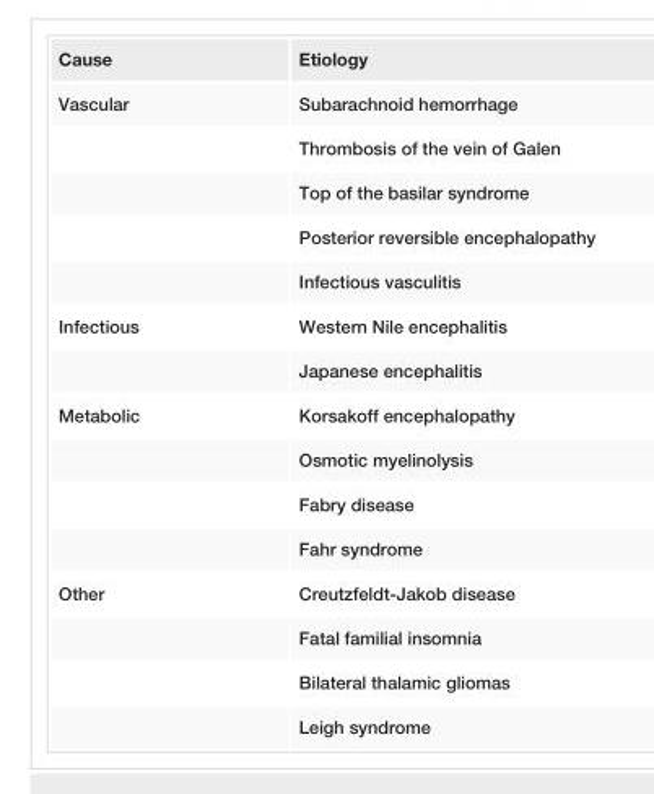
<table><tbody><tr><td>Cause</td><td>Etiology</td></tr><tr><td rowspan="5">Vascular</td><td>Subarachnoid hemorrhage</td></tr><tr><td>Thrombosis of the vein of Galen</td></tr><tr><td>Top of the basilar syndrome</td></tr><tr><td>Posterior reversible encephalopathy</td></tr><tr><td>Infectious vasculitis</td></tr><tr><td rowspan="2">Infectious</td><td>Western Nile encephalitis</td></tr><tr><td>Japanese encephalitis</td></tr><tr><td rowspan="4">Metabolic</td><td>Korsakoff encephalopathy</td></tr><tr><td>Osmotic myelinolysis</td></tr><tr><td>Fabry disease</td></tr><tr><td>Fahr syndrome</td></tr><tr><td rowspan="4">Other</td><td>Creutzfeldt-Jakob disease</td></tr><tr><td>Fatal familial insomnia</td></tr><tr><td>Bilateral thalamic gliomas</td></tr><tr><td>Leigh syndrome</td></tr></tbody></table>